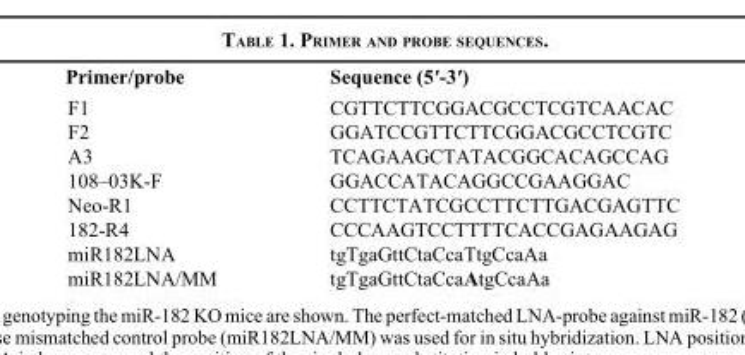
<table><thead><tr><td>Primer/probe</td><td>Sequence (5′-3′)</td></tr></thead><tbody><tr><td>F1</td><td>CGTTCTTCGGACGCCTCGTCAACAC</td></tr><tr><td>F2</td><td>GGATCCGTTCTTCGGACGCCTCGTC</td></tr><tr><td>A3</td><td>TCAGAAGCTATACGGCACAGCCAG</td></tr><tr><td>108–03K-F</td><td>GGACCATACAGGCCGAAGGAC</td></tr><tr><td>Neo-R1</td><td>CCTTCTATCGCCTTCTTGACGAGTTC</td></tr><tr><td>182-R4</td><td>CCCAAGTCCTTTTCACCGAGAAGAG</td></tr><tr><td>miR182LNA</td><td>tgTgaGttCtaCcaTtgCcaAa</td></tr><tr><td>miR182LNA/MM</td><td>tgTgaGttCtaCcaAtgCcaAa</td></tr></tbody></table>